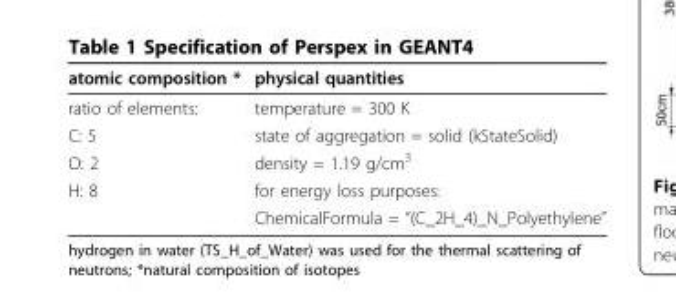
<table><thead><tr><td>atomic composition *</td><td>physical quantities</td></tr></thead><tbody><tr><td>ratio of elements:</td><td>temperature = 300 K</td></tr><tr><td>C: 5</td><td>state of aggregation = solid (kStateSolid)</td></tr><tr><td>O: 2</td><td>density = 1.19 g/cm<sup>3</sup></td></tr><tr><td rowspan="2">H: 8</td><td>for energy loss purposes:</td></tr><tr><td>ChemicalFormula = “(C_2H_4)_N_Polyethylene”</td></tr></tbody></table>